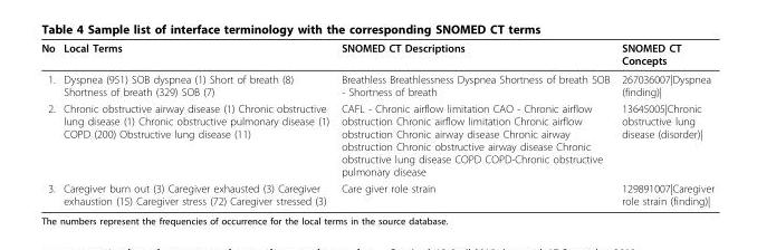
<table><thead><tr><td>No</td><td>Local Terms</td><td>SNOMED CT Descriptions</td><td>SNOMED CT Concepts</td></tr></thead><tbody><tr><td>1.</td><td>Dyspnea (951) SOB dyspnea (1) Short of breath (8) Shortness of breath (329) SOB (7)</td><td>Breathless Breathlessness Dyspnea Shortness of breath SOB - Shortness of breath</td><td>267036007|Dyspnea (finding)|</td></tr><tr><td>2.</td><td>Chronic obstructive airway disease (1) Chronic obstructive lung disease (1) Chronic obstructive pulmonary disease (1) COPD (200) Obstructive lung disease (11)</td><td>CAFL - Chronic airflow limitation CAO - Chronic airflow obstruction Chronic airflow limitation Chronic airflow obstruction Chronic airway disease Chronic airway obstruction Chronic obstructive airway disease Chronic obstructive lung disease COPD COPD-Chronic obstructive pulmonary disease</td><td>13645005|Chronic obstructive lung disease (disorder)|</td></tr><tr><td>3.</td><td>Caregiver burn out (3) Caregiver exhausted (3) Caregiver exhaustion (15) Caregiver stress (72) Caregiver stressed (3)</td><td>Care giver role strain</td><td>129891007|Caregiver role strain (finding)|</td></tr></tbody></table>